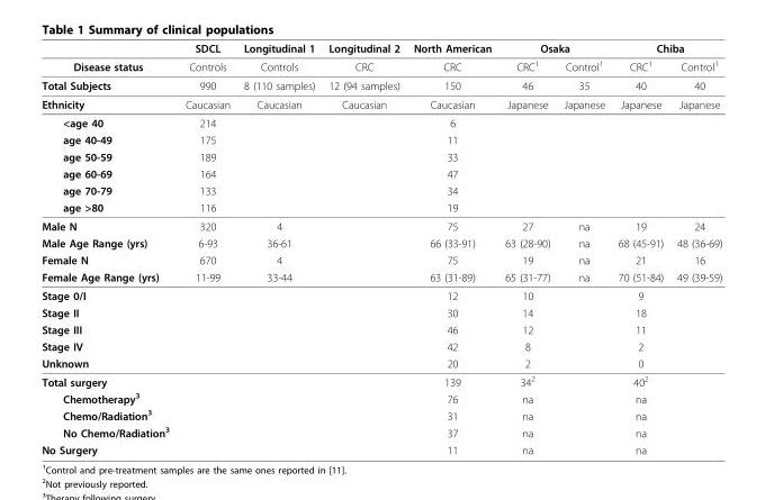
<table><thead><tr><td rowspan="2">Disease status</td><td rowspan="2">SDCL Controls</td><td rowspan="2">Longitudinal 1 Controls</td><td rowspan="2">Longitudinal 2 CRC</td><td rowspan="2">North American CRC</td><td colspan="2">Osaka</td><td colspan="2">Chiba</td></tr><tr><td>CRC1</td><td>Control1</td><td>CRC1</td><td>Control1</td></tr></thead><tbody><tr><td>Total Subjects</td><td>990</td><td>8 (110 samples)</td><td>12 (94 samples)</td><td>150</td><td>46</td><td>35</td><td>40</td><td>40</td></tr><tr><td>Ethnicity</td><td>Caucasian</td><td>Caucasian</td><td>Caucasian</td><td>Caucasian</td><td>Japanese</td><td>Japanese</td><td>Japanese</td><td>Japanese</td></tr><tr><td>&lt;age 40</td><td>214</td><td></td><td></td><td>6</td><td></td><td></td><td></td><td></td></tr><tr><td>age 40-49</td><td>175</td><td></td><td></td><td>11</td><td></td><td></td><td></td><td></td></tr><tr><td>age 50-59</td><td>189</td><td></td><td></td><td>33</td><td></td><td></td><td></td><td></td></tr><tr><td>age 60-69</td><td>164</td><td></td><td></td><td>47</td><td></td><td></td><td></td><td></td></tr><tr><td>age 70-79</td><td>133</td><td></td><td></td><td>34</td><td></td><td></td><td></td><td></td></tr><tr><td>age &gt;80</td><td>116</td><td></td><td></td><td>19</td><td></td><td></td><td></td><td></td></tr><tr><td>Male N</td><td>320</td><td>4</td><td></td><td>75</td><td>27</td><td>na</td><td>19</td><td>24</td></tr><tr><td>Male Age Range (yrs)</td><td>6-93</td><td>36-61</td><td></td><td>66 (33-91)</td><td>63 (28-90)</td><td>na</td><td>68 (45-91)</td><td>48 (36-69)</td></tr><tr><td>Female N</td><td>670</td><td>4</td><td></td><td>75</td><td>19</td><td>na</td><td>21</td><td>16</td></tr><tr><td>Female Age Range (yrs)</td><td>11-99</td><td>33-44</td><td></td><td>63 (31-89)</td><td>65 (31-77)</td><td>na</td><td>70 (51-84)</td><td>49 (39-59)</td></tr><tr><td>Stage 0/I</td><td></td><td></td><td></td><td>12</td><td>10</td><td></td><td>9</td><td></td></tr><tr><td>Stage II</td><td></td><td></td><td></td><td>30</td><td>14</td><td></td><td>18</td><td></td></tr><tr><td>Stage III</td><td></td><td></td><td></td><td>46</td><td>12</td><td></td><td>11</td><td></td></tr><tr><td>Stage IV</td><td></td><td></td><td></td><td>42</td><td>8</td><td></td><td>2</td><td></td></tr><tr><td>Unknown</td><td></td><td></td><td></td><td>20</td><td>2</td><td></td><td>0</td><td></td></tr><tr><td>Total surgery</td><td></td><td></td><td></td><td>139</td><td>34<sup>2</sup></td><td></td><td>40<sup>2</sup></td><td></td></tr><tr><td>Chemotherapy<sup>3</sup></td><td></td><td></td><td></td><td>76</td><td>na</td><td></td><td>na</td><td></td></tr><tr><td>Chemo/Radiation<sup>3</sup></td><td></td><td></td><td></td><td>31</td><td>na</td><td></td><td>na</td><td></td></tr><tr><td>No Chemo/Radiation<sup>3</sup></td><td></td><td></td><td></td><td>37</td><td>na</td><td></td><td>na</td><td></td></tr><tr><td>No Surgery</td><td></td><td></td><td></td><td>11</td><td>na</td><td></td><td>na</td><td></td></tr></tbody></table>